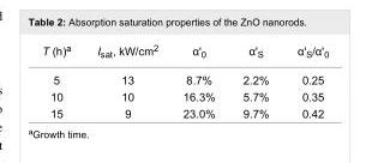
<table><tbody><tr><td>T (h)<sup>a</sup></td><td>I<sub>sat</sub>, kW/cm<sup>2</sup></td><td>α&#x27;<sub>0</sub></td><td>α&#x27;<sub>S</sub></td><td>α&#x27;<sub>S</sub>/α&#x27;<sub>0</sub></td></tr><tr><td>5</td><td>13</td><td>8.7%</td><td>2.2%</td><td>0.25</td></tr><tr><td>10</td><td>10</td><td>16.3%</td><td>5.7%</td><td>0.35</td></tr><tr><td>15</td><td>9</td><td>23.0%</td><td>9.7%</td><td>0.42</td></tr></tbody></table>